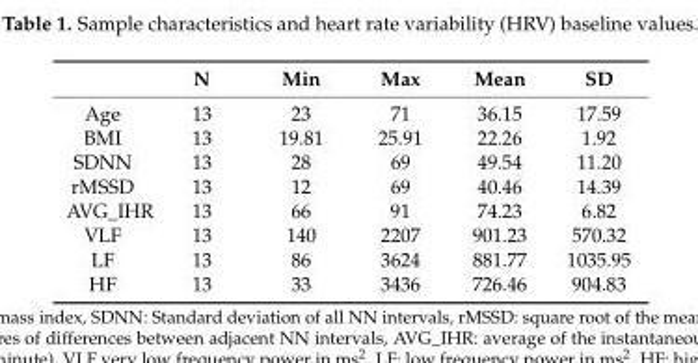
<table><thead><tr><td></td><td>N</td><td>Min</td><td>Max</td><td>Mean</td><td>SD</td></tr></thead><tbody><tr><td>Age</td><td>13</td><td>23</td><td>71</td><td>36.15</td><td>17.59</td></tr><tr><td>BMI</td><td>13</td><td>19.81</td><td>25.91</td><td>22.26</td><td>1.92</td></tr><tr><td>SDNN</td><td>13</td><td>28</td><td>69</td><td>49.54</td><td>11.20</td></tr><tr><td>rMSSD</td><td>13</td><td>12</td><td>69</td><td>40.46</td><td>14.39</td></tr><tr><td>AVG_IHR</td><td>13</td><td>66</td><td>91</td><td>74.23</td><td>6.82</td></tr><tr><td>VLF</td><td>13</td><td>140</td><td>2207</td><td>901.23</td><td>570.32</td></tr><tr><td>LF</td><td>13</td><td>86</td><td>3624</td><td>881.77</td><td>1035.95</td></tr><tr><td>HF</td><td>13</td><td>33</td><td>3436</td><td>726.46</td><td>904.83</td></tr></tbody></table>